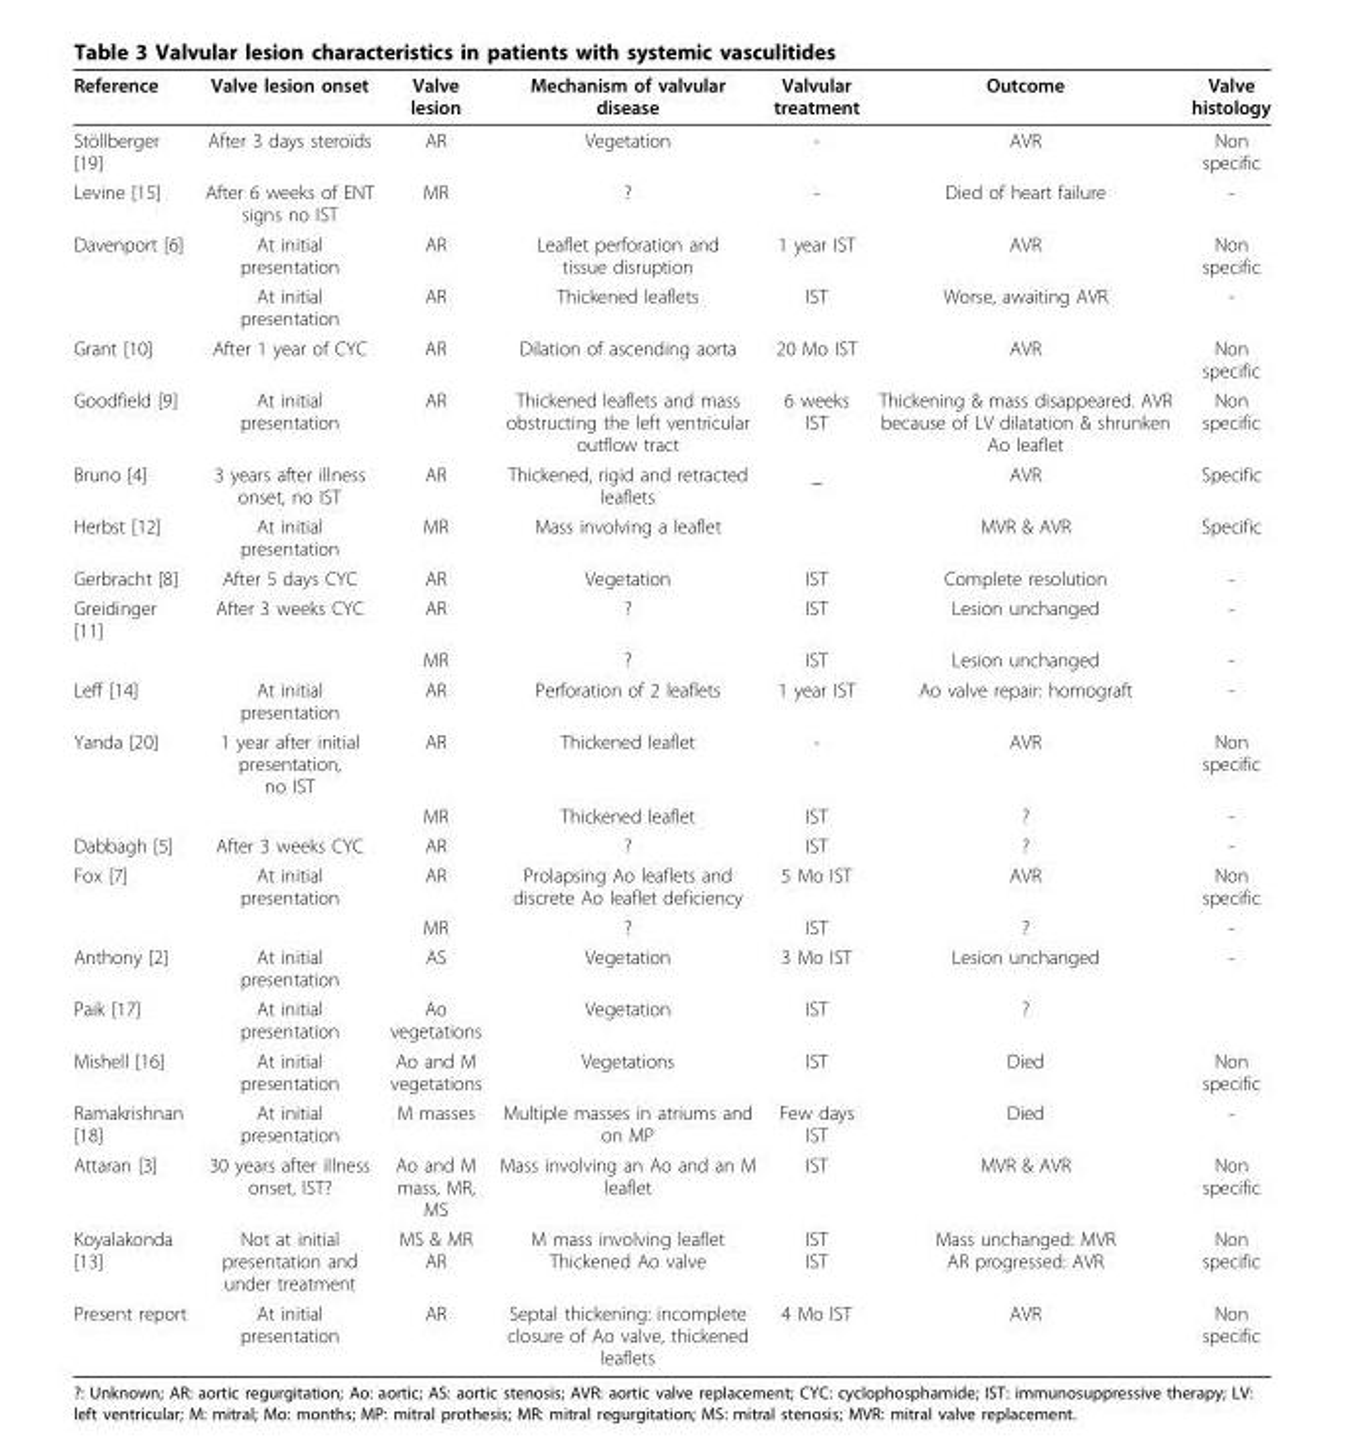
<table><thead><tr><td>Reference</td><td>Valve lesion onset</td><td>Valve lesion</td><td>Mechanism of valvular disease</td><td>Valvular treatment</td><td>Outcome</td><td>Valve histology</td></tr></thead><tbody><tr><td>Stöllberger [19]</td><td>After 3 days steroïds</td><td>AR</td><td>Vegetation</td><td>-</td><td>AVR</td><td>Non specific</td></tr><tr><td>Levine [15]</td><td>After 6 weeks of ENT signs no IST</td><td>MR</td><td>?</td><td>-</td><td>Died of heart failure</td><td>-</td></tr><tr><td rowspan="2">Davenport [6]</td><td>At initial presentation</td><td>AR</td><td>Leaflet perforation and tissue disruption</td><td>1 year IST</td><td>AVR</td><td>Non specific</td></tr><tr><td>At initial presentation</td><td>AR</td><td>Thickened leaflets</td><td>IST</td><td>Worse, awaiting AVR</td><td>-</td></tr><tr><td>Grant [10]</td><td>After 1 year of CYC</td><td>AR</td><td>Dilation of ascending aorta</td><td>20 Mo IST</td><td>AVR</td><td>Non specific</td></tr><tr><td>Goodfield [9]</td><td>At initial presentation</td><td>AR</td><td>Thickened leaflets and mass obstructing the left ventricular outflow tract</td><td>6 weeks IST</td><td>Thickening &amp; mass disappeared. AVR because of LV dilatation &amp; shrunken Ao leaflet</td><td>Non specific</td></tr><tr><td>Bruno [4]</td><td>3 years after illness onset, no IST</td><td>AR</td><td>Thickened, rigid and retracted leaflets</td><td>_</td><td>AVR</td><td>Specific</td></tr><tr><td>Herbst [12]</td><td>At initial presentation</td><td>MR</td><td>Mass involving a leaflet</td><td></td><td>MVR &amp; AVR</td><td>Specific</td></tr><tr><td>Gerbracht [8]</td><td>After 5 days CYC</td><td>AR</td><td>Vegetation</td><td>IST</td><td>Complete resolution</td><td>-</td></tr><tr><td rowspan="2">Greidinger [11]</td><td>After 3 weeks CYC</td><td>AR</td><td>?</td><td>IST</td><td>Lesion unchanged</td><td>-</td></tr><tr><td></td><td>MR</td><td>?</td><td>IST</td><td>Lesion unchanged</td><td>-</td></tr><tr><td>Leff [14]</td><td>At initial presentation</td><td>AR</td><td>Perforation of 2 leaflets</td><td>1 year IST</td><td>Ao valve repair: homograft</td><td>-</td></tr><tr><td rowspan="2">Yanda [20]</td><td>1 year after initial presentation, no IST</td><td>AR</td><td>Thickened leaflet</td><td>-</td><td>AVR</td><td>Non specific</td></tr><tr><td></td><td>MR</td><td>Thickened leaflet</td><td>IST</td><td>?</td><td>-</td></tr><tr><td>Dabbagh [5]</td><td>After 3 weeks CYC</td><td>AR</td><td>?</td><td>IST</td><td>?</td><td>-</td></tr><tr><td rowspan="2">Fox [7]</td><td>At initial presentation</td><td>AR</td><td>Prolapsing Ao leaflets and discrete Ao leaflet deficiency</td><td>5 Mo IST</td><td>AVR</td><td>Non specific</td></tr><tr><td></td><td>MR</td><td>?</td><td>IST</td><td>?</td><td>-</td></tr><tr><td>Anthony [2]</td><td>At initial presentation</td><td>AS</td><td>Vegetation</td><td>3 Mo IST</td><td>Lesion unchanged</td><td>-</td></tr><tr><td>Paik [17]</td><td>At initial presentation</td><td>Ao vegetations</td><td>Vegetation</td><td>IST</td><td>?</td><td></td></tr><tr><td>Mishell [16]</td><td>At initial presentation</td><td>Ao and M vegetations</td><td>Vegetations</td><td>IST</td><td>Died</td><td>Non specific</td></tr><tr><td>Ramakrishnan [18]</td><td>At initial presentation</td><td>M masses</td><td>Multiple masses in atriums and on MP</td><td>Few days IST</td><td>Died</td><td>-</td></tr><tr><td>Attaran [3]</td><td>30 years after illness onset, IST?</td><td>Ao and M mass, MR, MS</td><td>Mass involving an Ao and an M leaflet</td><td>IST</td><td>MVR &amp; AVR</td><td>Non specific</td></tr><tr><td>Koyalakonda [13]</td><td>Not at initial presentation and under treatment</td><td>MS &amp; MR AR</td><td>M mass involving leaflet Thickened Ao valve</td><td>IST IST</td><td>Mass unchanged: MVR AR progressed: AVR</td><td>Non specific</td></tr><tr><td>Present report</td><td>At initial presentation</td><td>AR</td><td>Septal thickening: incomplete closure of Ao valve, thickened leaflets</td><td>4 Mo IST</td><td>AVR</td><td>Non specific</td></tr></tbody></table>